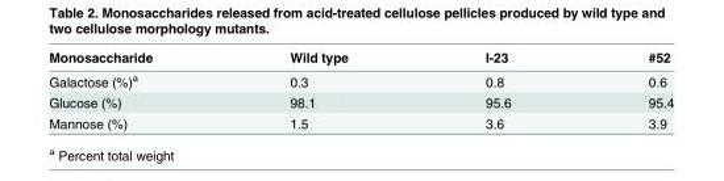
<table><thead><tr><td>Monosaccharide</td><td>Wild type</td><td>I-23</td><td>#52</td></tr></thead><tbody><tr><td>Galactose (%)<sup>a</sup></td><td>0.3</td><td>0.8</td><td>0.6</td></tr><tr><td>Glucose (%)</td><td>98.1</td><td>95.6</td><td>95.4</td></tr><tr><td>Mannose (%)</td><td>1.5</td><td>3.6</td><td>3.9</td></tr></tbody></table>